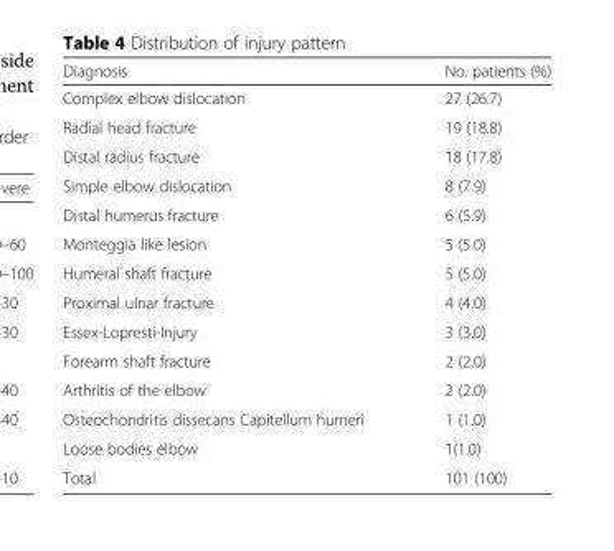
<table><thead><tr><td>Diagnosis</td><td>No. patients (%)</td></tr></thead><tbody><tr><td>Complex elbow dislocation</td><td>27 (26.7)</td></tr><tr><td>Radial head fracture</td><td>19 (18.8)</td></tr><tr><td>Distal radius fracture</td><td>18 (17.8)</td></tr><tr><td>Simple elbow dislocation</td><td>8 (7.9)</td></tr><tr><td>Distal humerus fracture</td><td>6 (5.9)</td></tr><tr><td>Monteggia like lesion</td><td>5 (5.0)</td></tr><tr><td>Humeral shaft fracture</td><td>5 (5.0)</td></tr><tr><td>Proximal ulnar fracture</td><td>4 (4.0)</td></tr><tr><td>Essex-Lopresti-Injury</td><td>3 (3.0)</td></tr><tr><td>Forearm shaft fracture</td><td>2 (2.0)</td></tr><tr><td>Arthritis of the elbow</td><td>2 (2.0)</td></tr><tr><td>Osteochondritis dissecans Capitellum humeri</td><td>1 (1.0)</td></tr><tr><td>Loose bodies elbow</td><td>1(1.0)</td></tr><tr><td>Total</td><td>101 (100)</td></tr></tbody></table>